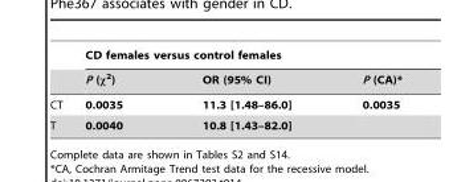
<table><thead><tr><td rowspan="2"></td><td colspan="3">CD females versus control females</td></tr><tr><td>P (χ<sup>2</sup>)</td><td>OR (95% CI)</td><td>P (CA)*</td></tr></thead><tbody><tr><td>CT</td><td>0.0035</td><td>11.3 [1.48–86.0]</td><td>0.0035</td></tr><tr><td>T</td><td>0.0040</td><td>10.8 [1.43–82.0]</td><td></td></tr></tbody></table>